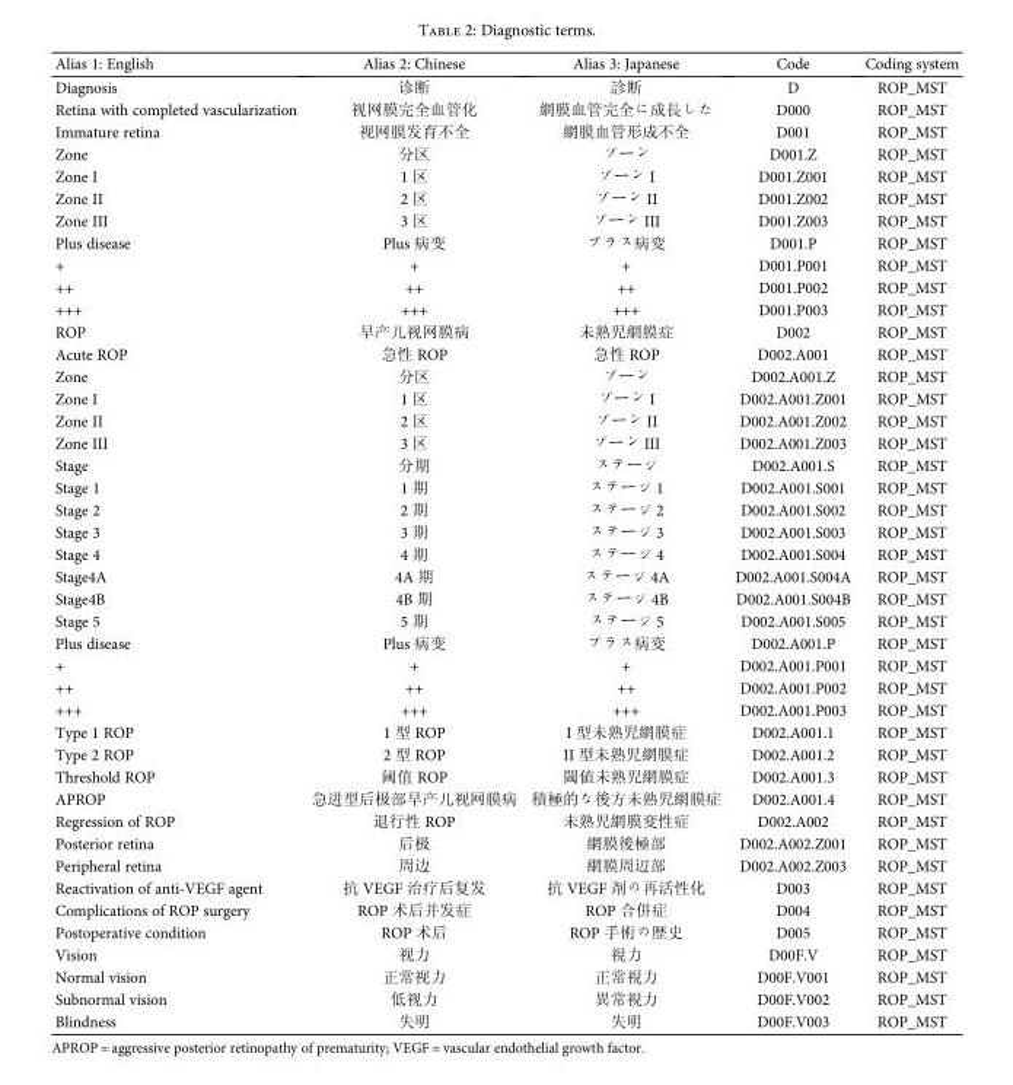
<table><thead><tr><td>Alias 1: English</td><td>Alias 2: Chinese</td><td>Alias 3: Japanese</td><td>Code</td><td>Coding system</td></tr></thead><tbody><tr><td>Diagnosis</td><td>诊断</td><td>診断</td><td>D</td><td>ROP_MST</td></tr><tr><td>Retina with completed vascularization</td><td>视网膜完全血管化</td><td>網膜血管完全に成長した</td><td>D000</td><td>ROP_MST</td></tr><tr><td>Immature retina</td><td>视网膜发育不全</td><td>網膜血管形成不全</td><td>D001</td><td>ROP_MST</td></tr><tr><td>Zone</td><td>分区</td><td>ゾーン</td><td>D001.Z</td><td>ROP_MST</td></tr><tr><td>Zone I</td><td>1 区</td><td>ゾーン I</td><td>D001.Z001</td><td>ROP_MST</td></tr><tr><td>Zone II</td><td>2 区</td><td>ゾーン II</td><td>D001.Z002</td><td>ROP_MST</td></tr><tr><td>Zone III</td><td>3 区</td><td>ゾーン III</td><td>D001.Z003</td><td>ROP_MST</td></tr><tr><td>Plus disease</td><td>Plus 病变</td><td>プラス病変</td><td>D001.P</td><td>ROP_MST</td></tr><tr><td>+</td><td>+</td><td>+</td><td>D001.P001</td><td>ROP_MST</td></tr><tr><td>++</td><td>++</td><td>++</td><td>D001.P002</td><td>ROP_MST</td></tr><tr><td>+++</td><td>+++</td><td>+++</td><td>D001.P003</td><td>ROP_MST</td></tr><tr><td>ROP</td><td>早产儿视网膜病</td><td>未熟児網膜症</td><td>D002</td><td>ROP_MST</td></tr><tr><td>Acute ROP</td><td>急性 ROP</td><td>急性 ROP</td><td>D002.A001</td><td>ROP_MST</td></tr><tr><td>Zone</td><td>分区</td><td>ゾーン</td><td>D002.A001.Z</td><td>ROP_MST</td></tr><tr><td>Zone I</td><td>1 区</td><td>ゾーン I</td><td>D002.A001.Z001</td><td>ROP_MST</td></tr><tr><td>Zone II</td><td>2 区</td><td>ゾーン II</td><td>D002.A001.Z002</td><td>ROP_MST</td></tr><tr><td>Zone III</td><td>3 区</td><td>ゾーン III</td><td>D002.A001.Z003</td><td>ROP_MST</td></tr><tr><td>Stage</td><td>分期</td><td>ステージ</td><td>D002.A001.S</td><td>ROP_MST</td></tr><tr><td>Stage 1</td><td>1 期</td><td>ステージ 1</td><td>D002.A001.S001</td><td>ROP_MST</td></tr><tr><td>Stage 2</td><td>2 期</td><td>ステージ 2</td><td>D002.A001.S002</td><td>ROP_MST</td></tr><tr><td>Stage 3</td><td>3 期</td><td>ステージ 3</td><td>D002.A001.S003</td><td>ROP_MST</td></tr><tr><td>Stage 4</td><td>4 期</td><td>ステージ 4</td><td>D002.A001.S004</td><td>ROP_MST</td></tr><tr><td>Stage4A</td><td>4A 期</td><td>ステージ 4A</td><td>D002.A001.S004A</td><td>ROP_MST</td></tr><tr><td>Stage4B</td><td>4B 期</td><td>ステージ 4B</td><td>D002.A001.S004B</td><td>ROP_MST</td></tr><tr><td>Stage 5</td><td>5 期</td><td>ステージ 5</td><td>D002.A001.S005</td><td>ROP_MST</td></tr><tr><td>Plus disease</td><td>Plus 病变</td><td>プラス病変</td><td>D002.A001.P</td><td>ROP_MST</td></tr><tr><td>+</td><td>+</td><td>+</td><td>D002.A001.P001</td><td>ROP_MST</td></tr><tr><td>++</td><td>++</td><td>++</td><td>D002.A001.P002</td><td>ROP_MST</td></tr><tr><td>+++</td><td>+++</td><td>+++</td><td>D002.A001.P003</td><td>ROP_MST</td></tr><tr><td>Type 1 ROP</td><td>1 型 ROP</td><td>I 型未熟児網膜症</td><td>D002.A001.1</td><td>ROP_MST</td></tr><tr><td>Type 2 ROP</td><td>2 型 ROP</td><td>II 型未熟児網膜症</td><td>D002.A001.2</td><td>ROP_MST</td></tr><tr><td>Threshold ROP</td><td>阈值 ROP</td><td>閾値未熟児網膜症</td><td>D002.A001.3</td><td>ROP_MST</td></tr><tr><td>APROP</td><td>急进型后极部早产儿视网膜病</td><td>積極的な後方未熟児網膜症</td><td>D002.A001.4</td><td>ROP_MST</td></tr><tr><td>Regression of ROP</td><td>退行性 ROP</td><td>未熟児網膜変性症</td><td>D002.A002</td><td>ROP_MST</td></tr><tr><td>Posterior retina</td><td>后极</td><td>網膜後極部</td><td>D002.A002.Z001</td><td>ROP_MST</td></tr><tr><td>Peripheral retina</td><td>周边</td><td>網膜周辺部</td><td>D002.A002.Z003</td><td>ROP_MST</td></tr><tr><td>Reactivation of anti-VEGF agent</td><td>抗 VEGF 治疗后复发</td><td>抗 VEGF 剤の再活性化</td><td>D003</td><td>ROP_MST</td></tr><tr><td>Complications of ROP surgery</td><td>ROP 术后并发症</td><td>ROP 合併症</td><td>D004</td><td>ROP_MST</td></tr><tr><td>Postoperative condition</td><td>ROP 术后</td><td>ROP 手術の歴史</td><td>D005</td><td>ROP_MST</td></tr><tr><td>Vision</td><td>视力</td><td>視力</td><td>D00F.V</td><td>ROP_MST</td></tr><tr><td>Normal vision</td><td>正常视力</td><td>正常視力</td><td>D00F.V001</td><td>ROP_MST</td></tr><tr><td>Subnormal vision</td><td>低视力</td><td>異常視力</td><td>D00F.V002</td><td>ROP_MST</td></tr><tr><td>Blindness</td><td>失明</td><td>失明</td><td>D00F.V003</td><td>ROP_MST</td></tr></tbody></table>